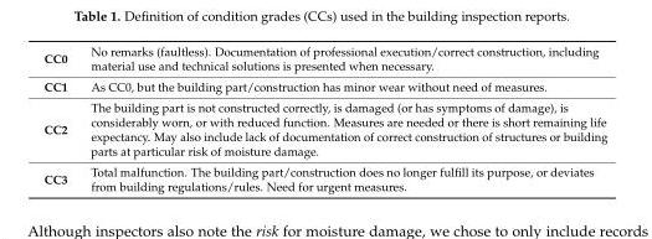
<table><tbody><tr><td>CC0</td><td>No remarks (faultless). Documentation of professional execution/correct construction, including material use and technical solutions is presented when necessary.</td></tr><tr><td>CC1</td><td>As CC0, but the building part/construction has minor wear without need of measures.</td></tr><tr><td>CC2</td><td>The building part is not constructed correctly, is damaged (or has symptoms of damage), is considerably worn, or with reduced function. Measures are needed or there is short remaining life expectancy. May also include lack of documentation of correct construction of structures or building parts at particular risk of moisture damage.</td></tr><tr><td>CC3</td><td>Total malfunction. The building part/construction does no longer fulfill its purpose, or deviates from building regulations/rules. Need for urgent measures.</td></tr></tbody></table>